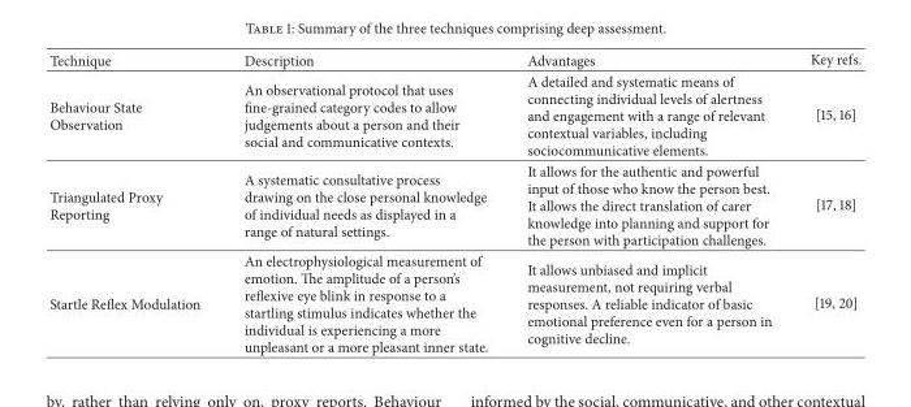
<table><thead><tr><td>Technique</td><td>Description</td><td>Advantages</td><td>Key refs.</td></tr></thead><tbody><tr><td>Behaviour State Observation</td><td>An observational protocol that uses fine-grained category codes to allow judgements about a person and their social and communicative contexts.</td><td>A detailed and systematic means of connecting individual levels of alertness and engagement with a range of relevant contextual variables, including sociocommunicative elements.</td><td>[15, 16]</td></tr><tr><td>Triangulated Proxy Reporting</td><td>A systematic consultative process drawing on the close personal knowledge of individual needs as displayed in a range of natural settings.</td><td>It allows for the authentic and powerful input of those who know the person best. It allows the direct translation of carer knowledge into planning and support for the person with participation challenges.</td><td>[17, 18]</td></tr><tr><td>Startle Reflex Modulation</td><td>An electrophysiological measurement of emotion. The amplitude of a person’s reflexive eye blink in response to a startling stimulus indicates whether the individual is experiencing a more unpleasant or a more pleasant inner state.</td><td>It allows unbiased and implicit measurement, not requiring verbal responses. A reliable indicator of basic emotional preference even for a person in cognitive decline.</td><td>[19, 20]</td></tr></tbody></table>